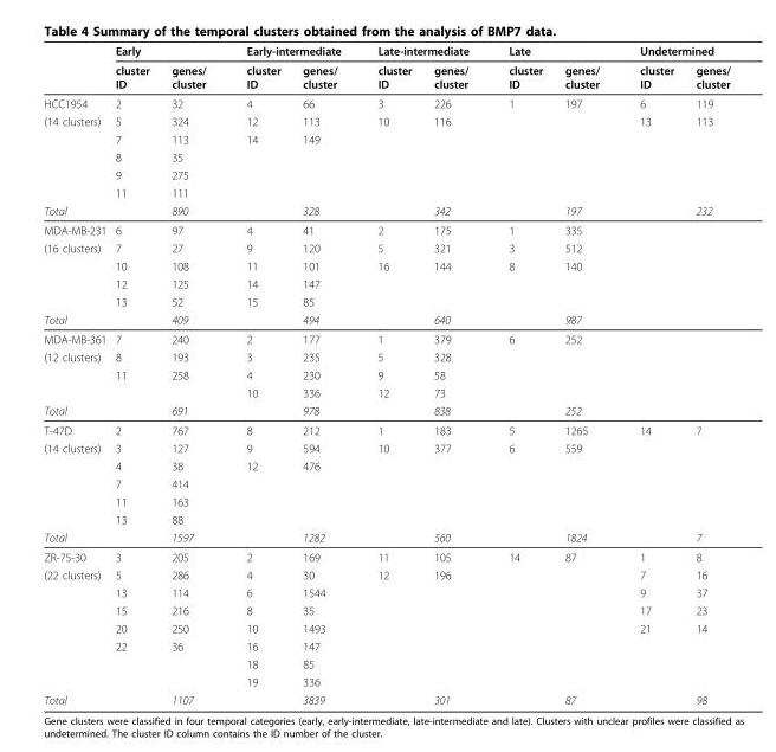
<table><thead><tr><td rowspan="2"></td><td colspan="2">Early</td><td colspan="2">Early-intermediate</td><td colspan="2">Late-intermediate</td><td colspan="2">Late</td><td colspan="2">Undetermined</td></tr><tr><td>cluster ID</td><td>genes/ cluster</td><td>cluster ID</td><td>genes/ cluster</td><td>cluster ID</td><td>genes/ cluster</td><td>cluster ID</td><td>genes/ cluster</td><td>cluster ID</td><td>genes/ cluster</td></tr></thead><tbody><tr><td>HCC1954</td><td>2</td><td>32</td><td>4</td><td>66</td><td>3</td><td>226</td><td>1</td><td>197</td><td>6</td><td>119</td></tr><tr><td rowspan="5">(14 clusters)</td><td>5</td><td>324</td><td>12</td><td>113</td><td>10</td><td>116</td><td></td><td></td><td>13</td><td>113</td></tr><tr><td>7</td><td>113</td><td>14</td><td>149</td><td></td><td></td><td></td><td></td><td></td><td></td></tr><tr><td>8</td><td>35</td><td></td><td></td><td></td><td></td><td></td><td></td><td></td><td></td></tr><tr><td>9</td><td>275</td><td></td><td></td><td></td><td></td><td></td><td></td><td></td><td></td></tr><tr><td>11</td><td>111</td><td></td><td></td><td></td><td></td><td></td><td></td><td></td><td></td></tr><tr><td>Total</td><td></td><td>890</td><td></td><td>328</td><td></td><td>342</td><td></td><td>197</td><td></td><td>232</td></tr><tr><td>MDA-MB-231</td><td>6</td><td>97</td><td>4</td><td>41</td><td>2</td><td>175</td><td>1</td><td>335</td><td></td><td></td></tr><tr><td rowspan="4">(16 clusters)</td><td>7</td><td>27</td><td>9</td><td>120</td><td>5</td><td>321</td><td>3</td><td>512</td><td></td><td></td></tr><tr><td>10</td><td>108</td><td>11</td><td>101</td><td>16</td><td>144</td><td>8</td><td>140</td><td></td><td></td></tr><tr><td>12</td><td>125</td><td>14</td><td>147</td><td></td><td></td><td></td><td></td><td></td><td></td></tr><tr><td>13</td><td>52</td><td>15</td><td>85</td><td></td><td></td><td></td><td></td><td></td><td></td></tr><tr><td>Total</td><td></td><td>409</td><td></td><td>494</td><td></td><td>640</td><td></td><td>987</td><td></td><td></td></tr><tr><td>MDA-MB-361</td><td>7</td><td>240</td><td>2</td><td>177</td><td>1</td><td>379</td><td>6</td><td>252</td><td></td><td></td></tr><tr><td rowspan="3">(12 clusters)</td><td>8</td><td>193</td><td>3</td><td>235</td><td>5</td><td>328</td><td></td><td></td><td></td><td></td></tr><tr><td>11</td><td>258</td><td>4</td><td>230</td><td>9</td><td>58</td><td></td><td></td><td></td><td></td></tr><tr><td></td><td></td><td>10</td><td>336</td><td>12</td><td>73</td><td></td><td></td><td></td><td></td></tr><tr><td>Total</td><td></td><td>691</td><td></td><td>978</td><td></td><td>838</td><td></td><td>252</td><td></td><td></td></tr><tr><td>T-47D</td><td>2</td><td>767</td><td>8</td><td>212</td><td>1</td><td>183</td><td>5</td><td>1265</td><td>14</td><td>7</td></tr><tr><td rowspan="5">(14 clusters)</td><td>3</td><td>127</td><td>9</td><td>594</td><td>10</td><td>377</td><td>6</td><td>559</td><td></td><td></td></tr><tr><td>4</td><td>38</td><td>12</td><td>476</td><td></td><td></td><td></td><td></td><td></td><td></td></tr><tr><td>7</td><td>414</td><td></td><td></td><td></td><td></td><td></td><td></td><td></td><td></td></tr><tr><td>11</td><td>163</td><td></td><td></td><td></td><td></td><td></td><td></td><td></td><td></td></tr><tr><td>13</td><td>88</td><td></td><td></td><td></td><td></td><td></td><td></td><td></td><td></td></tr><tr><td>Total</td><td></td><td>1597</td><td></td><td>1282</td><td></td><td>560</td><td></td><td>1824</td><td></td><td>7</td></tr><tr><td>ZR-75-30</td><td>3</td><td>205</td><td>2</td><td>169</td><td>11</td><td>105</td><td>14</td><td>87</td><td>1</td><td>8</td></tr><tr><td rowspan="7">(22 clusters)</td><td>5</td><td>286</td><td>4</td><td>30</td><td>12</td><td>196</td><td></td><td></td><td>7</td><td>16</td></tr><tr><td>13</td><td>114</td><td>6</td><td>1544</td><td></td><td></td><td></td><td></td><td>9</td><td>37</td></tr><tr><td>15</td><td>216</td><td>8</td><td>35</td><td></td><td></td><td></td><td></td><td>17</td><td>23</td></tr><tr><td>20</td><td>250</td><td>10</td><td>1493</td><td></td><td></td><td></td><td></td><td>21</td><td>14</td></tr><tr><td>22</td><td>36</td><td>16</td><td>147</td><td></td><td></td><td></td><td></td><td></td><td></td></tr><tr><td></td><td></td><td>18</td><td>85</td><td></td><td></td><td></td><td></td><td></td><td></td></tr><tr><td></td><td></td><td>19</td><td>336</td><td></td><td></td><td></td><td></td><td></td><td></td></tr><tr><td>Total</td><td></td><td>1107</td><td></td><td>3839</td><td></td><td>301</td><td></td><td>87</td><td></td><td>98</td></tr></tbody></table>